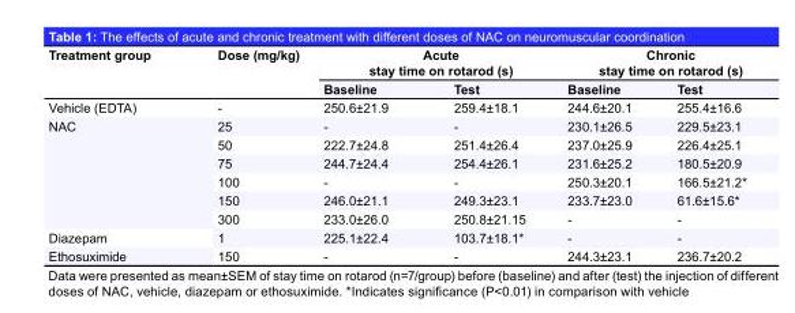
<table><thead><tr><td rowspan="2">Treatment group</td><td rowspan="2">Dose (mg/kg)</td><td colspan="2">Acute stay time on rotarod (s)</td><td colspan="2">Chronic stay time on rotarod (s)</td></tr><tr><td>Baseline</td><td>Test</td><td>Baseline</td><td>Test</td></tr></thead><tbody><tr><td>Vehicle (EDTA)</td><td>-</td><td>250.6±21.9</td><td>259.4±18.1</td><td>244.6±20.1</td><td>255.4±16.6</td></tr><tr><td rowspan="6">NAC</td><td>25</td><td>-</td><td>-</td><td>230.1±26.5</td><td>229.5±23.1</td></tr><tr><td>50</td><td>222.7±24.8</td><td>251.4±26.4</td><td>237.0±25.9</td><td>226.4±25.1</td></tr><tr><td>75</td><td>244.7±24.4</td><td>254.4±26.1</td><td>231.6±25.2</td><td>180.5±20.9</td></tr><tr><td>100</td><td>-</td><td>-</td><td>250.3±20.1</td><td>166.5±21.2*</td></tr><tr><td>150</td><td>246.0±21.1</td><td>249.3±23.1</td><td>233.7±23.0</td><td>61.6±15.6*</td></tr><tr><td>300</td><td>233.0±26.0</td><td>250.8±21.15</td><td>-</td><td>-</td></tr><tr><td>Diazepam</td><td>1</td><td>225.1±22.4</td><td>103.7±18.1*</td><td>-</td><td>-</td></tr><tr><td>Ethosuximide</td><td>150</td><td>-</td><td>-</td><td>244.3±23.1</td><td>236.7±20.2</td></tr></tbody></table>